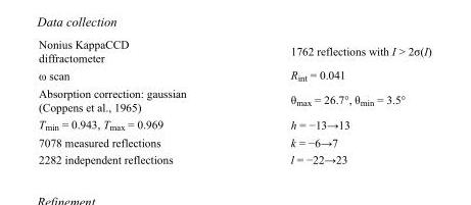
<table><tbody><tr><td>Nonius KappaCCD diffractometer</td><td>1762 reflections with I &gt; 2σ(I)</td></tr><tr><td>ω scan</td><td>R<sub>int</sub> = 0.041</td></tr><tr><td>Absorption correction: gaussian (Coppens et al., 1965)</td><td>θ<sub>max</sub> = 26.7°, θ<sub>min</sub> = 3.5°</td></tr><tr><td>T<sub>min</sub> = 0.943, T<sub>max</sub> = 0.969</td><td>h = −13→13</td></tr><tr><td>7078 measured reflections</td><td>k = −6→7</td></tr><tr><td>2282 independent reflections</td><td>l = −22→23</td></tr></tbody></table>